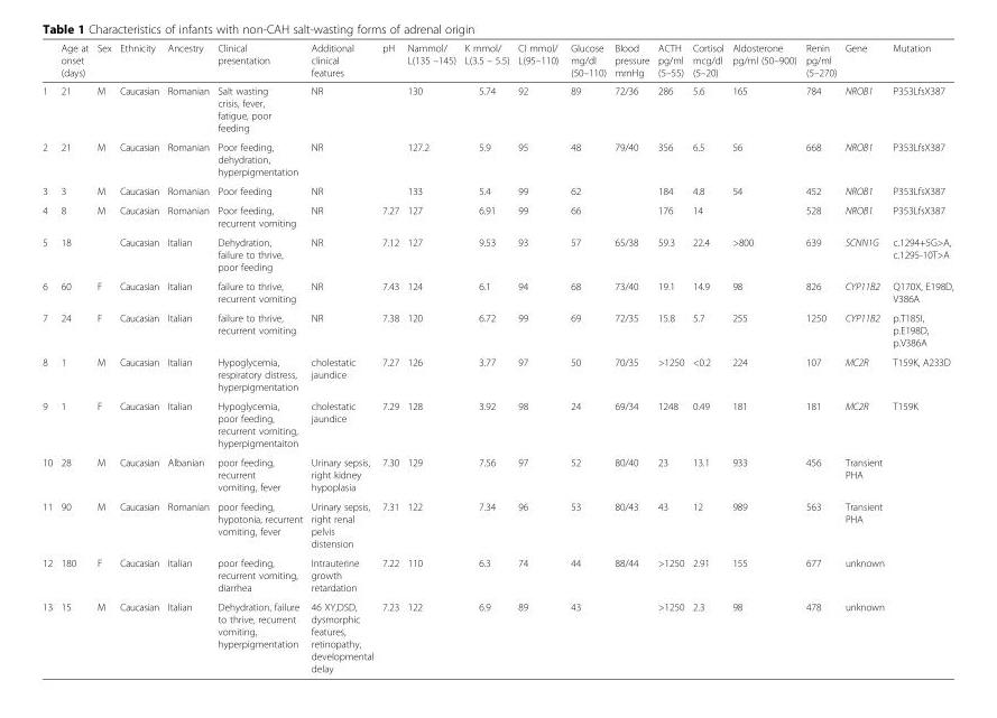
<table><thead><tr><td></td><td>Age at onset (days)</td><td>Sex</td><td>Ethnicity</td><td>Ancestry</td><td>Clinical presentation</td><td>Additional clinical features</td><td>pH</td><td>Nammol/ L(135 –145)</td><td>K mmol/ L(3.5 – 5.5)</td><td>Cl mmol/ L(95–110)</td><td>Glucose mg/dl (50–110)</td><td>Blood pressure mmHg</td><td>ACTH pg/ml (5–55)</td><td>Cortisol mcg/dl (5–20)</td><td>Aldosterone pg/ml (50–900)</td><td>Renin pg/ml (5–270)</td><td>Gene</td><td>Mutation</td></tr></thead><tbody><tr><td>1</td><td>21</td><td>M</td><td>Caucasian</td><td>Romanian</td><td>Salt wasting crisis, fever, fatigue, poor feeding</td><td>NR</td><td></td><td>130</td><td>5.74</td><td>92</td><td>89</td><td>72/36</td><td>286</td><td>5.6</td><td>165</td><td>784</td><td>NROB1</td><td>P353LfsX387</td></tr><tr><td>2</td><td>21</td><td>M</td><td>Caucasian</td><td>Romanian</td><td>Poor feeding, dehydration, hyperpigmentation</td><td>NR</td><td></td><td>127.2</td><td>5.9</td><td>95</td><td>48</td><td>79/40</td><td>356</td><td>6.5</td><td>56</td><td>668</td><td>NROB1</td><td>P353LfsX387</td></tr><tr><td>3</td><td>3</td><td>M</td><td>Caucasian</td><td>Romanian</td><td>Poor feeding</td><td>NR</td><td></td><td>133</td><td>5.4</td><td>99</td><td>62</td><td></td><td>184</td><td>4.8</td><td>54</td><td>452</td><td>NROB1</td><td>P353LfsX387</td></tr><tr><td>4</td><td>8</td><td>M</td><td>Caucasian</td><td>Romanian</td><td>Poor feeding, recurrent vomiting</td><td>NR</td><td>7.27</td><td>127</td><td>6.91</td><td>99</td><td>66</td><td></td><td>176</td><td>14</td><td></td><td>528</td><td>NROB1</td><td>P353LfsX387</td></tr><tr><td>5</td><td>18</td><td></td><td>Caucasian</td><td>Italian</td><td>Dehydration, failure to thrive, poor feeding</td><td>NR</td><td>7.12</td><td>127</td><td>9.53</td><td>93</td><td>57</td><td>65/38</td><td>59.3</td><td>22.4</td><td>&gt;800</td><td>639</td><td>SCNN1G</td><td>c.1294+5G&gt;A, c.1295-10T&gt;A</td></tr><tr><td>6</td><td>60</td><td>F</td><td>Caucasian</td><td>Italian</td><td>failure to thrive, recurrent vomiting</td><td>NR</td><td>7.43</td><td>124</td><td>6.1</td><td>94</td><td>68</td><td>73/40</td><td>19.1</td><td>14.9</td><td>98</td><td>826</td><td>CYP11B2</td><td>Q170X, E198D, V386A</td></tr><tr><td>7</td><td>24</td><td>F</td><td>Caucasian</td><td>Italian</td><td>failure to thrive, recurrent vomiting</td><td>NR</td><td>7.38</td><td>120</td><td>6.72</td><td>99</td><td>69</td><td>72/35</td><td>15.8</td><td>5.7</td><td>255</td><td>1250</td><td>CYP11B2</td><td>p.T185I, p.E198D, p.V386A</td></tr><tr><td>8</td><td>1</td><td>M</td><td>Caucasian</td><td>Italian</td><td>Hypoglycemia, respiratory distress, hyperpigmentation</td><td>cholestatic jaundice</td><td>7.27</td><td>126</td><td>3.77</td><td>97</td><td>50</td><td>70/35</td><td>&gt;1250</td><td>&lt;0.2</td><td>224</td><td>107</td><td>MC2R</td><td>T159K, A233D</td></tr><tr><td>9</td><td>1</td><td>F</td><td>Caucasian</td><td>Italian</td><td>Hypoglycemia, poor feeding, recurrent vomiting, hyperpigmentaiton</td><td>cholestatic jaundice</td><td>7.29</td><td>128</td><td>3.92</td><td>98</td><td>24</td><td>69/34</td><td>1248</td><td>0.49</td><td>181</td><td>181</td><td>MC2R</td><td>T159K</td></tr><tr><td>10</td><td>28</td><td>M</td><td>Caucasian</td><td>Albanian</td><td>poor feeding, recurrent vomiting, fever</td><td>Urinary sepsis, right kidney hypoplasia</td><td>7.30</td><td>129</td><td>7.56</td><td>97</td><td>52</td><td>80/40</td><td>23</td><td>13.1</td><td>933</td><td>456</td><td>Transient PHA</td><td></td></tr><tr><td>11</td><td>90</td><td>M</td><td>Caucasian</td><td>Romanian</td><td>poor feeding, hypotonia, recurrent vomiting, fever</td><td>Urinary sepsis, right renal pelvis distension</td><td>7.31</td><td>122</td><td>7.34</td><td>96</td><td>53</td><td>80/43</td><td>43</td><td>12</td><td>989</td><td>563</td><td>Transient PHA</td><td></td></tr><tr><td>12</td><td>180</td><td>F</td><td>Caucasian</td><td>Italian</td><td>poor feeding, recurrent vomiting, diarrhea</td><td>Intrauterine growth retardation</td><td>7.22</td><td>110</td><td>6.3</td><td>74</td><td>44</td><td>88/44</td><td>&gt;1250</td><td>2.91</td><td>155</td><td>677</td><td>unknown</td><td></td></tr><tr><td>13</td><td>15</td><td>M</td><td>Caucasian</td><td>Italian</td><td>Dehydration, failure to thrive, recurrent vomiting, hyperpigmentation</td><td>46 XY,DSD, dysmorphic features, retinopathy, developmental delay</td><td>7.23</td><td>122</td><td>6.9</td><td>89</td><td>43</td><td></td><td>&gt;1250</td><td>2.3</td><td>98</td><td>478</td><td>unknown</td><td></td></tr></tbody></table>